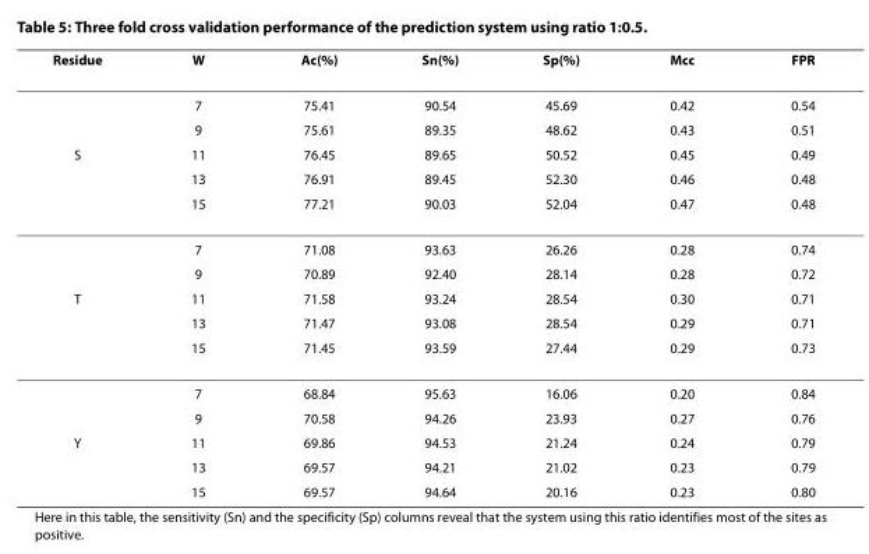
<table><thead><tr><td>Residue</td><td>W</td><td>Ac(%)</td><td>Sn(%)</td><td>Sp(%)</td><td>Mcc</td><td>FPR</td></tr></thead><tbody><tr><td></td><td>7</td><td>75.41</td><td>90.54</td><td>45.69</td><td>0.42</td><td>0.54</td></tr><tr><td></td><td>9</td><td>75.61</td><td>89.35</td><td>48.62</td><td>0.43</td><td>0.51</td></tr><tr><td rowspan="5">S</td><td>11</td><td>76.45</td><td>89.65</td><td>50.52</td><td>0.45</td><td>0.49</td></tr><tr><td>13</td><td>76.91</td><td>89.45</td><td>52.30</td><td>0.46</td><td>0.48</td></tr><tr><td>15</td><td>77.21</td><td>90.03</td><td>52.04</td><td>0.47</td><td>0.48</td></tr><tr><td>7</td><td>71.08</td><td>93.63</td><td>26.26</td><td>0.28</td><td>0.74</td></tr><tr><td>9</td><td>70.89</td><td>92.40</td><td>28.14</td><td>0.28</td><td>0.72</td></tr><tr><td rowspan="5">T</td><td>11</td><td>71.58</td><td>93.24</td><td>28.54</td><td>0.30</td><td>0.71</td></tr><tr><td>13</td><td>71.47</td><td>93.08</td><td>28.54</td><td>0.29</td><td>0.71</td></tr><tr><td>15</td><td>71.45</td><td>93.59</td><td>27.44</td><td>0.29</td><td>0.73</td></tr><tr><td>7</td><td>68.84</td><td>95.63</td><td>16.06</td><td>0.20</td><td>0.84</td></tr><tr><td>9</td><td>70.58</td><td>94.26</td><td>23.93</td><td>0.27</td><td>0.76</td></tr><tr><td rowspan="3">Y</td><td>11</td><td>69.86</td><td>94.53</td><td>21.24</td><td>0.24</td><td>0.79</td></tr><tr><td>13</td><td>69.57</td><td>94.21</td><td>21.02</td><td>0.23</td><td>0.79</td></tr><tr><td>15</td><td>69.57</td><td>94.64</td><td>20.16</td><td>0.23</td><td>0.80</td></tr></tbody></table>